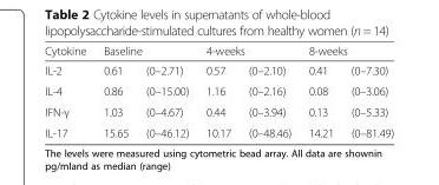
<table><thead><tr><td rowspan="2">Cytokine IL-2</td><td colspan="2">Baseline</td><td colspan="2">4-weeks</td><td colspan="2">8-weeks</td></tr><tr><td>0.61</td><td>(0–2.71)</td><td>0.57</td><td>(0–2.10)</td><td>0.41</td><td>(0–7.30)</td></tr></thead><tbody><tr><td>IL-4</td><td>0.86</td><td>(0–15.00)</td><td>1.16</td><td>(0–2.16)</td><td>0.08</td><td>(0–3.06)</td></tr><tr><td>IFN-γ</td><td>1.03</td><td>(0–4.67)</td><td>0.44</td><td>(0–3.94)</td><td>0.13</td><td>(0–5.33)</td></tr><tr><td>IL-17</td><td>15.65</td><td>(0–46.12)</td><td>10.17</td><td>(0–48.46)</td><td>14.21</td><td>(0–81.49)</td></tr></tbody></table>